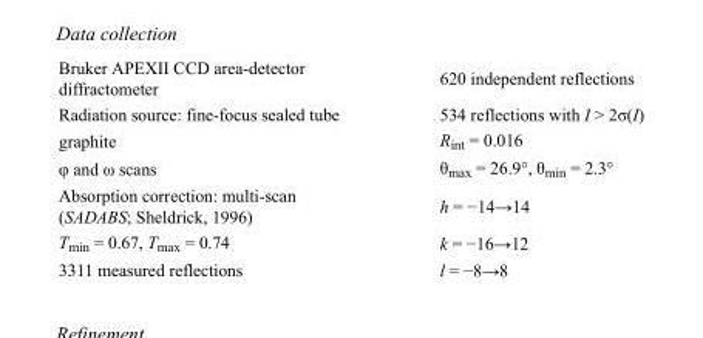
<table><tbody><tr><td>Bruker APEXII CCD area-detector diffractometer</td><td>620 independent reflections</td></tr><tr><td>Radiation source: fine-focus sealed tube</td><td>534 reflections with I &gt; 2σ(I)</td></tr><tr><td>graphite</td><td>R<sub>int</sub> = 0.016</td></tr><tr><td>φ and ω scans</td><td>θ<sub>max</sub> = 26.9°, θ<sub>min</sub> = 2.3°</td></tr><tr><td>Absorption correction: multi-scan (SADABS; Sheldrick, 1996)</td><td>h = −14→14</td></tr><tr><td>T<sub>min</sub> = 0.67, T<sub>max</sub> = 0.74</td><td>k = −16→12</td></tr><tr><td>3311 measured reflections</td><td>l = −8→8</td></tr></tbody></table>